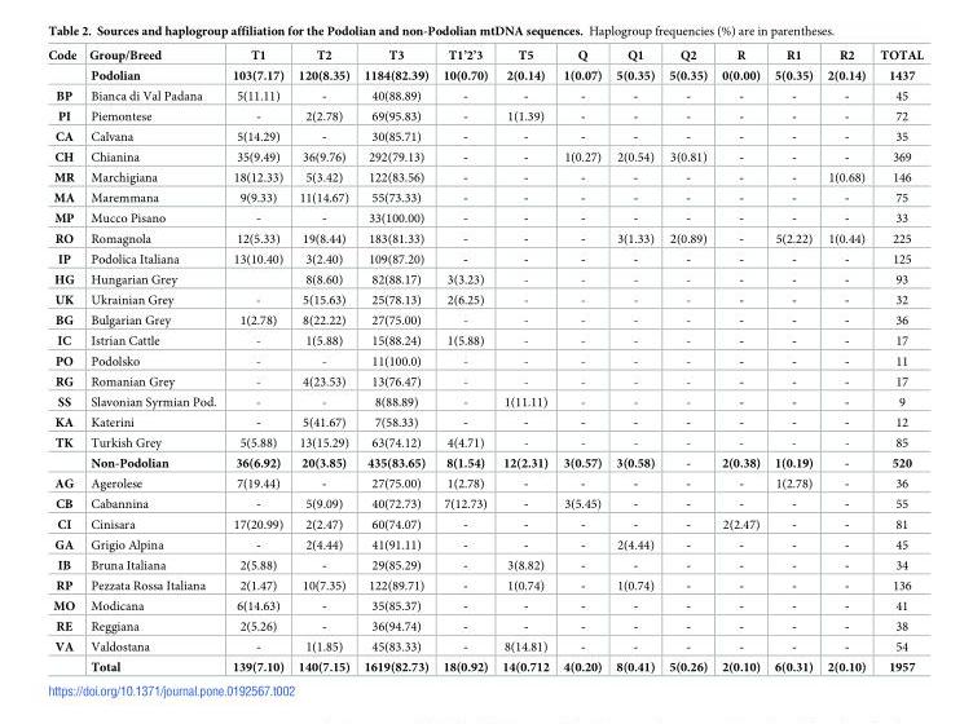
<table><thead><tr><td>Code</td><td>Group/Breed</td><td>T1</td><td>T2</td><td>T3</td><td>T1’2’3</td><td>T5</td><td>Q</td><td>Q1</td><td>Q2</td><td>R</td><td>R1</td><td>R2</td><td>TOTAL</td></tr></thead><tbody><tr><td></td><td>Podolian</td><td>103(7.17)</td><td>120(8.35)</td><td>1184(82.39)</td><td>10(0.70)</td><td>2(0.14)</td><td>1(0.07)</td><td>5(0.35)</td><td>5(0.35)</td><td>0(0.00)</td><td>5(0.35)</td><td>2(0.14)</td><td>1437</td></tr><tr><td>BP</td><td>Bianca di Val Padana</td><td>5(11.11)</td><td>-</td><td>40(88.89)</td><td>-</td><td>-</td><td>-</td><td>-</td><td>-</td><td>-</td><td>-</td><td>-</td><td>45</td></tr><tr><td>PI</td><td>Piemontese</td><td>-</td><td>2(2.78)</td><td>69(95.83)</td><td>-</td><td>1(1.39)</td><td>-</td><td>-</td><td>-</td><td>-</td><td>-</td><td>-</td><td>72</td></tr><tr><td>CA</td><td>Calvana</td><td>5(14.29)</td><td>-</td><td>30(85.71)</td><td>-</td><td>-</td><td>-</td><td>-</td><td>-</td><td>-</td><td>-</td><td>-</td><td>35</td></tr><tr><td>CH</td><td>Chianina</td><td>35(9.49)</td><td>36(9.76)</td><td>292(79.13)</td><td>-</td><td>-</td><td>1(0.27)</td><td>2(0.54)</td><td>3(0.81)</td><td>-</td><td>-</td><td>-</td><td>369</td></tr><tr><td>MR</td><td>Marchigiana</td><td>18(12.33)</td><td>5(3.42)</td><td>122(83.56)</td><td>-</td><td>-</td><td>-</td><td>-</td><td>-</td><td>-</td><td>-</td><td>1(0.68)</td><td>146</td></tr><tr><td>MA</td><td>Maremmana</td><td>9(9.33)</td><td>11(14.67)</td><td>55(73.33)</td><td>-</td><td>-</td><td>-</td><td>-</td><td>-</td><td>-</td><td>-</td><td>-</td><td>75</td></tr><tr><td>MP</td><td>Mucco Pisano</td><td>-</td><td>-</td><td>33(100.00)</td><td>-</td><td>-</td><td>-</td><td>-</td><td>-</td><td>-</td><td>-</td><td>-</td><td>33</td></tr><tr><td>RO</td><td>Romagnola</td><td>12(5.33)</td><td>19(8.44)</td><td>183(81.33)</td><td>-</td><td>-</td><td>-</td><td>3(1.33)</td><td>2(0.89)</td><td>-</td><td>5(2.22)</td><td>1(0.44)</td><td>225</td></tr><tr><td>IP</td><td>Podolica Italiana</td><td>13(10.40)</td><td>3(2.40)</td><td>109(87.20)</td><td>-</td><td>-</td><td>-</td><td>-</td><td>-</td><td>-</td><td>-</td><td>-</td><td>125</td></tr><tr><td>HG</td><td>Hungarian Grey</td><td></td><td>8(8.60)</td><td>82(88.17)</td><td>3(3.23)</td><td>-</td><td>-</td><td>-</td><td>-</td><td>-</td><td>-</td><td>-</td><td>93</td></tr><tr><td>UK</td><td>Ukrainian Grey</td><td>-</td><td>5(15.63)</td><td>25(78.13)</td><td>2(6.25)</td><td>-</td><td>-</td><td>-</td><td>-</td><td>-</td><td>-</td><td>-</td><td>32</td></tr><tr><td>BG</td><td>Bulgarian Grey</td><td>1(2.78)</td><td>8(22.22)</td><td>27(75.00)</td><td>-</td><td>-</td><td>-</td><td>-</td><td>-</td><td>-</td><td>-</td><td>-</td><td>36</td></tr><tr><td>IC</td><td>Istrian Cattle</td><td>-</td><td>1(5.88)</td><td>15(88.24)</td><td>1(5.88)</td><td>-</td><td>-</td><td>-</td><td>-</td><td>-</td><td>-</td><td>-</td><td>17</td></tr><tr><td>PO</td><td>Podolsko</td><td>-</td><td>-</td><td>11(100.0)</td><td>-</td><td>-</td><td>-</td><td>-</td><td>-</td><td>-</td><td>-</td><td>-</td><td>11</td></tr><tr><td>RG</td><td>Romanian Grey</td><td>-</td><td>4(23.53)</td><td>13(76.47)</td><td>-</td><td>-</td><td>-</td><td>-</td><td>-</td><td>-</td><td>-</td><td>-</td><td>17</td></tr><tr><td>SS</td><td>Slavonian Syrmian Pod.</td><td>-</td><td>-</td><td>8(88.89)</td><td>-</td><td>1(11.11)</td><td>-</td><td>-</td><td>-</td><td>-</td><td>-</td><td>-</td><td>9</td></tr><tr><td>KA</td><td>Katerini</td><td>-</td><td>5(41.67)</td><td>7(58.33)</td><td>-</td><td>-</td><td>-</td><td>-</td><td>-</td><td>-</td><td>-</td><td>-</td><td>12</td></tr><tr><td rowspan="2">TK</td><td>Turkish Grey</td><td>5(5.88)</td><td>13(15.29)</td><td>63(74.12)</td><td>4(4.71)</td><td>-</td><td>-</td><td>-</td><td>-</td><td>-</td><td>-</td><td>-</td><td>85</td></tr><tr><td>Non-Podolian</td><td>36(6.92)</td><td>20(3.85)</td><td>435(83.65)</td><td>8(1.54)</td><td>12(2.31)</td><td>3(0.57)</td><td>3(0.58)</td><td>-</td><td>2(0.38)</td><td>1(0.19)</td><td>-</td><td>520</td></tr><tr><td>AG</td><td>Agerolese</td><td>7(19.44)</td><td>-</td><td>27(75.00)</td><td>1(2.78)</td><td>-</td><td>-</td><td>-</td><td>-</td><td>-</td><td>1(2.78)</td><td>-</td><td>36</td></tr><tr><td>CB</td><td>Cabannina</td><td>-</td><td>5(9.09)</td><td>40(72.73)</td><td>7(12.73)</td><td>-</td><td>3(5.45)</td><td>-</td><td>-</td><td>-</td><td>-</td><td>-</td><td>55</td></tr><tr><td>CI</td><td>Cinisara</td><td>17(20.99)</td><td>2(2.47)</td><td>60(74.07)</td><td>-</td><td>-</td><td>-</td><td>-</td><td>-</td><td>2(2.47)</td><td>-</td><td>-</td><td>81</td></tr><tr><td>GA</td><td>Grigio Alpina</td><td>-</td><td>2(4.44)</td><td>41(91.11)</td><td>-</td><td>-</td><td>-</td><td>2(4.44)</td><td>-</td><td>-</td><td>-</td><td>-</td><td>45</td></tr><tr><td>IB</td><td>Bruna Italiana</td><td>2(5.88)</td><td>-</td><td>29(85.29)</td><td>-</td><td>3(8.82)</td><td>-</td><td>-</td><td>-</td><td>-</td><td>-</td><td>-</td><td>34</td></tr><tr><td>RP</td><td>Pezzata Rossa Italiana</td><td>2(1.47)</td><td>10(7.35)</td><td>122(89.71)</td><td>-</td><td>1(0.74)</td><td>-</td><td>1(0.74)</td><td>-</td><td>-</td><td>-</td><td>-</td><td>136</td></tr><tr><td>MO</td><td>Modicana</td><td>6(14.63)</td><td>-</td><td>35(85.37)</td><td>-</td><td>-</td><td>-</td><td>-</td><td>-</td><td>-</td><td>-</td><td>-</td><td>41</td></tr><tr><td>RE</td><td>Reggiana</td><td>2(5.26)</td><td>-</td><td>36(94.74)</td><td>-</td><td>-</td><td>-</td><td>-</td><td>-</td><td>-</td><td>-</td><td>-</td><td>38</td></tr><tr><td rowspan="2">VA</td><td>Valdostana</td><td>-</td><td>1(1.85)</td><td>45(83.33)</td><td>-</td><td>8(14.81)</td><td>-</td><td>-</td><td>-</td><td>-</td><td>-</td><td>-</td><td>54</td></tr><tr><td>Total</td><td>139(7.10)</td><td>140(7.15)</td><td>1619(82.73)</td><td>18(0.92)</td><td>14(0.712</td><td>4(0.20)</td><td>8(0.41)</td><td>5(0.26)</td><td>2(0.10)</td><td>6(0.31)</td><td>2(0.10)</td><td>1957</td></tr></tbody></table>